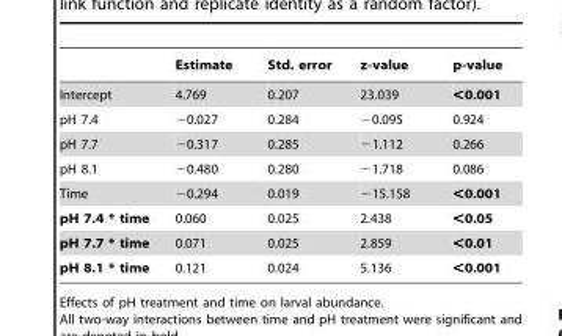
<table><thead><tr><td></td><td>Estimate</td><td>Std. error</td><td>z-value</td><td>p-value</td></tr></thead><tbody><tr><td>Intercept</td><td>4.769</td><td>0.207</td><td>23.039</td><td>&lt;0.001</td></tr><tr><td>pH 7.4</td><td>−0.027</td><td>0.284</td><td>−0.095</td><td>0.924</td></tr><tr><td>pH 7.7</td><td>−0.317</td><td>0.285</td><td>−1.112</td><td>0.266</td></tr><tr><td>pH 8.1</td><td>−0.480</td><td>0.280</td><td>−1.718</td><td>0.086</td></tr><tr><td>Time</td><td>−0.294</td><td>0.019</td><td>−15.158</td><td>&lt;0.001</td></tr><tr><td>pH 7.4 * time</td><td>0.060</td><td>0.025</td><td>2.438</td><td>&lt;0.05</td></tr><tr><td>pH 7.7 * time</td><td>0.071</td><td>0.025</td><td>2.859</td><td>&lt;0.01</td></tr><tr><td>pH 8.1 * time</td><td>0.121</td><td>0.024</td><td>5.136</td><td>&lt;0.001</td></tr></tbody></table>